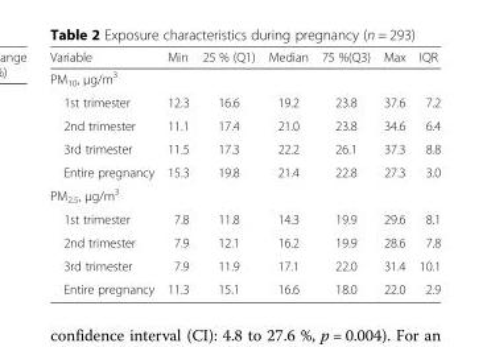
<table><thead><tr><td>Variable</td><td>Min</td><td>25 % (Q1)</td><td>Median</td><td>75 %(Q3)</td><td>Max</td><td>IQR</td></tr></thead><tbody><tr><td colspan="7">PM<sub>10</sub>, μg/m<sup>3</sup></td></tr><tr><td>1st trimester</td><td>12.3</td><td>16.6</td><td>19.2</td><td>23.8</td><td>37.6</td><td>7.2</td></tr><tr><td>2nd trimester</td><td>11.1</td><td>17.4</td><td>21.0</td><td>23.8</td><td>34.6</td><td>6.4</td></tr><tr><td>3rd trimester</td><td>11.5</td><td>17.3</td><td>22.2</td><td>26.1</td><td>37.3</td><td>8.8</td></tr><tr><td>Entire pregnancy</td><td>15.3</td><td>19.8</td><td>21.4</td><td>22.8</td><td>27.3</td><td>3.0</td></tr><tr><td colspan="7">PM<sub>2.5</sub>, μg/m<sup>3</sup></td></tr><tr><td>1st trimester</td><td>7.8</td><td>11.8</td><td>14.3</td><td>19.9</td><td>29.6</td><td>8.1</td></tr><tr><td>2nd trimester</td><td>7.9</td><td>12.1</td><td>16.2</td><td>19.9</td><td>28.6</td><td>7.8</td></tr><tr><td>3rd trimester</td><td>7.9</td><td>11.9</td><td>17.1</td><td>22.0</td><td>31.4</td><td>10.1</td></tr><tr><td>Entire pregnancy</td><td>11.3</td><td>15.1</td><td>16.6</td><td>18.0</td><td>22.0</td><td>2.9</td></tr></tbody></table>